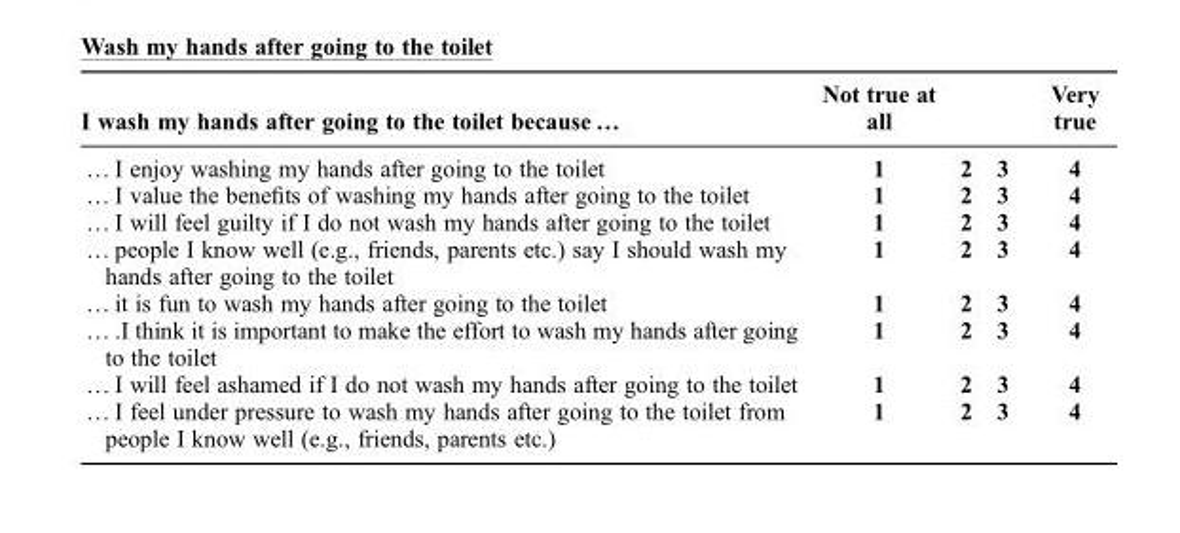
<table><thead><tr><td>I wash my hands after going to the toilet because …</td><td>Not true at all</td><td></td><td></td><td>Very true</td></tr></thead><tbody><tr><td>… I enjoy washing my hands after going to the toilet</td><td>1</td><td>2</td><td>3</td><td>4</td></tr><tr><td>… I value the benefits of washing my hands after going to the toilet</td><td>1</td><td>2</td><td>3</td><td>4</td></tr><tr><td>… I will feel guilty if I do not wash my hands after going to the toilet</td><td>1</td><td>2</td><td>3</td><td>4</td></tr><tr><td>… people I know well (e.g., friends, parents etc.) say I should wash my hands after going to the toilet</td><td>1</td><td>2</td><td>3</td><td>4</td></tr><tr><td>… it is fun to wash my hands after going to the toilet</td><td>1</td><td>2</td><td>3</td><td>4</td></tr><tr><td>… .I think it is important to make the effort to wash my hands after going to the toilet</td><td>1</td><td>2</td><td>3</td><td>4</td></tr><tr><td>… I will feel ashamed if I do not wash my hands after going to the toilet</td><td>1</td><td>2</td><td>3</td><td>4</td></tr><tr><td>… I feel under pressure to wash my hands after going to the toilet from people I know well (e.g., friends, parents etc.)</td><td>1</td><td>2</td><td>3</td><td>4</td></tr></tbody></table>